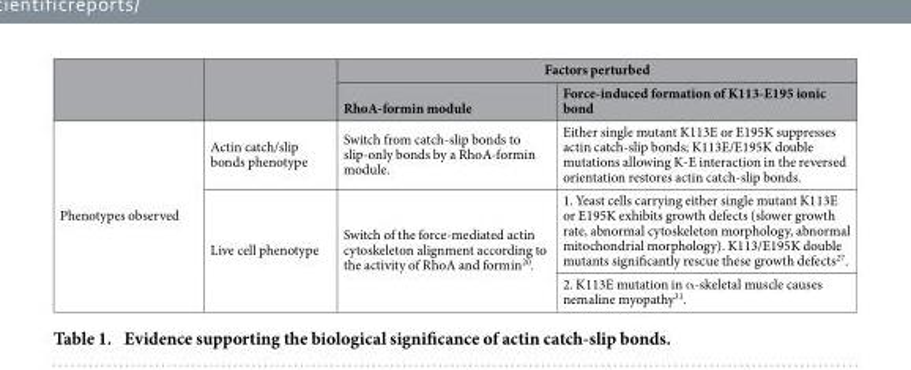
<table><thead><tr><td rowspan="2"></td><td rowspan="2"></td><td colspan="2">Factors perturbed</td></tr><tr><td>RhoA-formin module</td><td>Force-induced formation of K113-E195 ionic bond</td></tr></thead><tbody><tr><td rowspan="3">Phenotypes observed</td><td>Actin catch/slip bonds phenotype</td><td>Switch from catch-slip bonds to slip-only bonds by a RhoA-formin module.</td><td>Either single mutant K113E or E195K suppresses actin catch-slip bonds; K113E/E195K double mutations allowing K-E interaction in the reversed orientation restores actin catch-slip bonds.</td></tr><tr><td rowspan="2">Live cell phenotype</td><td rowspan="2">Switch of the force-mediated actin cytoskeleton alignment according to the activity of RhoA and formin<sup>20</sup>.</td><td>1. Yeast cells carrying either single mutant K113E or E195K exhibits growth defects (slower growth rate, abnormal cytoskeleton morphology, abnormal mitochondrial morphology). K113/E195K double mutants significantly rescue these growth defects<sup>27</sup>.</td></tr><tr><td>2. K113E mutation in α -skeletal muscle causes nemaline myopathy<sup>31</sup>.</td></tr></tbody></table>